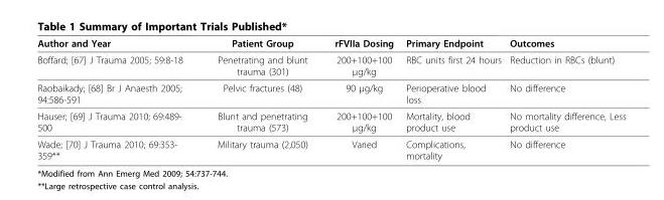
<table><thead><tr><td>Author and Year</td><td>Patient Group</td><td>rFVIIa Dosing</td><td>Primary Endpoint</td><td>Outcomes</td></tr></thead><tbody><tr><td>Boffard; [67] J Trauma 2005; 59:8-18</td><td>Penetrating and blunt trauma (301)</td><td>200+100+100 μg/kg</td><td>RBC units first 24 hours</td><td>Reduction in RBCs (blunt)</td></tr><tr><td>Raobaikady; [68] Br J Anaesth 2005; 94:586-591</td><td>Pelvic fractures (48)</td><td>90 μg/kg</td><td>Perioperative blood loss</td><td>No difference</td></tr><tr><td>Hauser; [69] J Trauma 2010; 69:489- 500</td><td>Blunt and penetrating trauma (573)</td><td>200+100+100 μg/kg</td><td>Mortality, blood product use</td><td>No mortality difference, Less product use</td></tr><tr><td>Wade; [70] J Trauma 2010; 69:353- 359**</td><td>Military trauma (2,050)</td><td>Varied</td><td>Complications, mortality</td><td>No difference</td></tr></tbody></table>